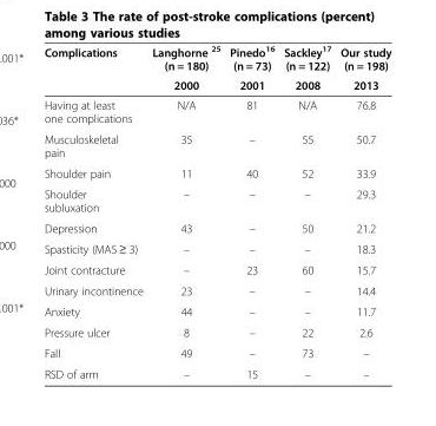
<table><thead><tr><td rowspan="2">Complications</td><td rowspan="2">Langhorne <sup>25</sup> (n = 180) 2000</td><td rowspan="2">Pinedo<sup>16</sup> (n = 73) 2001</td><td rowspan="2">Sackley<sup>17</sup> (n = 122) 2008</td><td rowspan="2">Our study (n = 198) 2013</td></tr><tr></tr></thead><tbody><tr><td>Having at least one complications</td><td>N/A</td><td>81</td><td>N/A</td><td>76.8</td></tr><tr><td>Musculoskeletal pain</td><td>35</td><td>–</td><td>55</td><td>50.7</td></tr><tr><td>Shoulder pain</td><td>11</td><td>40</td><td>52</td><td>33.9</td></tr><tr><td>Shoulder subluxation</td><td>–</td><td>–</td><td>–</td><td>29.3</td></tr><tr><td>Depression</td><td>43</td><td>–</td><td>50</td><td>21.2</td></tr><tr><td>Spasticity (MAS ≥ 3)</td><td>–</td><td>–</td><td>–</td><td>18.3</td></tr><tr><td>Joint contracture</td><td>–</td><td>23</td><td>60</td><td>15.7</td></tr><tr><td>Urinary incontinence</td><td>23</td><td>–</td><td>–</td><td>14.4</td></tr><tr><td>Anxiety</td><td>44</td><td>–</td><td>–</td><td>11.7</td></tr><tr><td>Pressure ulcer</td><td>8</td><td>–</td><td>22</td><td>2.6</td></tr><tr><td>Fall</td><td>49</td><td>–</td><td>73</td><td>–</td></tr><tr><td>RSD of arm</td><td>–</td><td>15</td><td>–</td><td>–</td></tr></tbody></table>